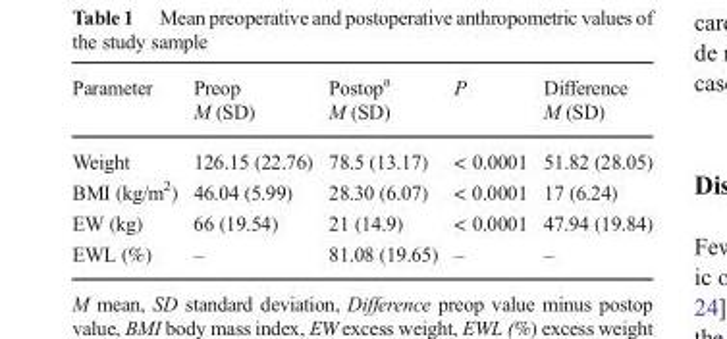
<table><thead><tr><td>Parameter</td><td>Preop M (SD)</td><td>Postop<sup>a</sup> M (SD)</td><td>P</td><td>Difference M (SD)</td></tr></thead><tbody><tr><td>Weight</td><td>126.15 (22.76)</td><td>78.5 (13.17)</td><td>&lt; 0.0001</td><td>51.82 (28.05)</td></tr><tr><td>BMI (kg/m<sup>2</sup>)</td><td>46.04 (5.99)</td><td>28.30 (6.07)</td><td>&lt; 0.0001</td><td>17 (6.24)</td></tr><tr><td>EW (kg)</td><td>66 (19.54)</td><td>21 (14.9)</td><td>&lt; 0.0001</td><td>47.94 (19.84)</td></tr><tr><td>EWL (%)</td><td>–</td><td>81.08 (19.65)</td><td>–</td><td>–</td></tr></tbody></table>